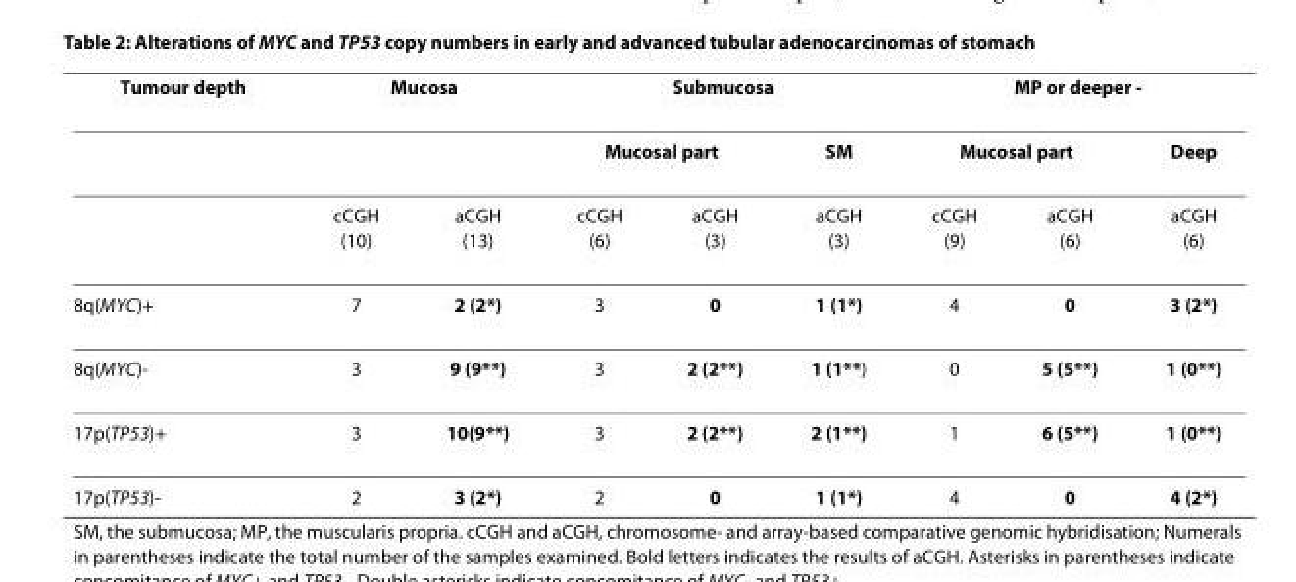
<table><thead><tr><td rowspan="3">Tumour depth</td><td colspan="2">Mucosa</td><td colspan="3">Submucosa</td><td colspan="3">MP or deeper -</td></tr><tr><td rowspan="2">cCGH (10)</td><td rowspan="2">aCGH (13)</td><td colspan="2">Mucosal part</td><td rowspan="2">SM aCGH (3)</td><td colspan="2">Mucosal part</td><td rowspan="2">Deep aCGH (6)</td></tr><tr><td>cCGH (6)</td><td>aCGH (3)</td><td>cCGH (9)</td><td>aCGH (6)</td></tr></thead><tbody><tr><td>8q(MYC)+</td><td>7</td><td>2 (2*)</td><td>3</td><td>0</td><td>1 (1*)</td><td>4</td><td>0</td><td>3 (2*)</td></tr><tr><td>8q(MYC)-</td><td>3</td><td>9 (9**)</td><td>3</td><td>2 (2**)</td><td>1 (1**)</td><td>0</td><td>5 (5**)</td><td>1 (0**)</td></tr><tr><td>17p(TP53)+</td><td>3</td><td>10(9**)</td><td>3</td><td>2 (2**)</td><td>2 (1**)</td><td>1</td><td>6 (5**)</td><td>1 (0**)</td></tr><tr><td>17p(TP53)-</td><td>2</td><td>3 (2*)</td><td>2</td><td>0</td><td>1 (1*)</td><td>4</td><td>0</td><td>4 (2*)</td></tr></tbody></table>